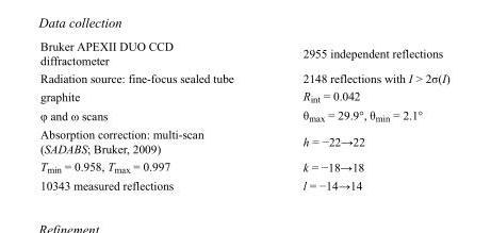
<table><tbody><tr><td>Bruker APEXII DUO CCD diffractometer</td><td>2955 independent reflections</td></tr><tr><td>Radiation source: fine-focus sealed tube</td><td>2148 reflections with I &gt; 2σ(I)</td></tr><tr><td>graphite</td><td>R<sub>int</sub> = 0.042</td></tr><tr><td>φ and ω scans</td><td>θ<sub>max</sub> = 29.9°, θ<sub>min</sub> = 2.1°</td></tr><tr><td>Absorption correction: multi-scan (SADABS; Bruker, 2009)</td><td>h = −22→22</td></tr><tr><td>T<sub>min</sub> = 0.958, T<sub>max</sub> = 0.997</td><td>k = −18→18</td></tr><tr><td>10343 measured reflections</td><td>l = −14→14</td></tr></tbody></table>